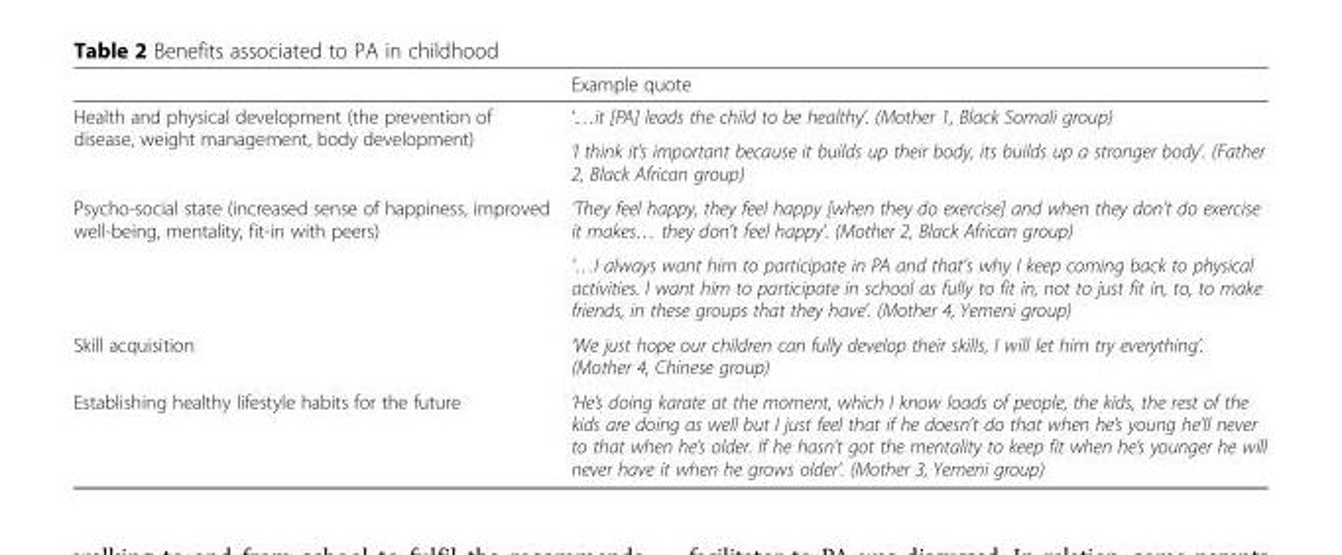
<table><thead><tr><td></td><td>Example quote</td></tr></thead><tbody><tr><td rowspan="2">Health and physical development (the prevention of disease, weight management, body development)</td><td>‘…it [PA] leads the child to be healthy’. (Mother 1, Black Somali group)</td></tr><tr><td>‘I think it’s important because it builds up their body, its builds up a stronger body’. (Father 2, Black African group)</td></tr><tr><td rowspan="2">Psycho-social state (increased sense of happiness, improved well-being, mentality, fit-in with peers)</td><td>‘They feel happy, they feel happy [when they do exercise] and when they don’t do exercise it makes… they don’t feel happy’. (Mother 2, Black African group)</td></tr><tr><td>‘…I always want him to participate in PA and that&#x27;s why I keep coming back to physical activities. I want him to participate in school as fully to fit in, not to just fit in, to, to make friends, in these groups that they have’. (Mother 4, Yemeni group)</td></tr><tr><td>Skill acquisition</td><td>‘We just hope our children can fully develop their skills, I will let him try everything’. (Mother 4, Chinese group)</td></tr><tr><td>Establishing healthy lifestyle habits for the future</td><td>‘He’s doing karate at the moment, which I know loads of people, the kids, the rest of the kids are doing as well but I just feel that if he doesn’t do that when he’s young he’ll never to that when he’s older. If he hasn’t got the mentality to keep fit when he’s younger he will never have it when he grows older’. (Mother 3, Yemeni group)</td></tr></tbody></table>